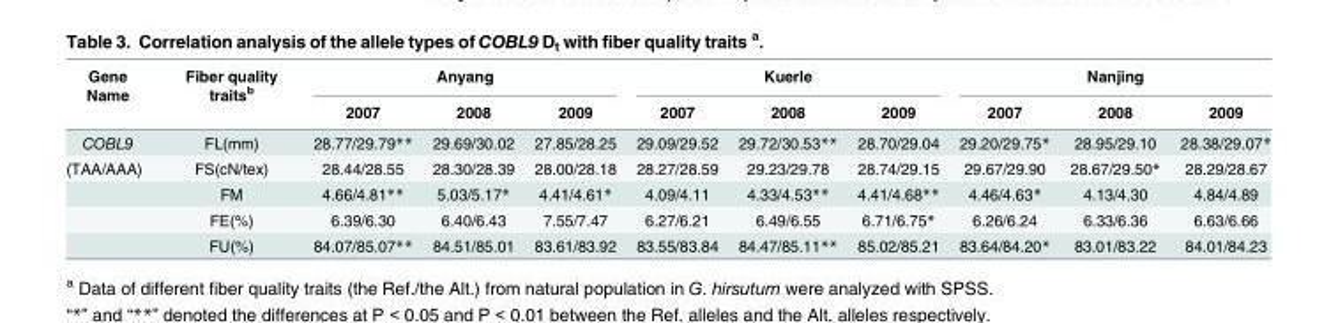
<table><thead><tr><td rowspan="2">Gene Name</td><td rowspan="2">Fiber quality traits<sup>b</sup></td><td colspan="3">Anyang</td><td colspan="3">Kuerle</td><td colspan="3">Nanjing</td></tr><tr><td>2007</td><td>2008</td><td>2009</td><td>2007</td><td>2008</td><td>2009</td><td>2007</td><td>2008</td><td>2009</td></tr></thead><tbody><tr><td>COBL9</td><td>FL(mm)</td><td>28.77/29.79**</td><td>29.69/30.02</td><td>27.85/28.25</td><td>29.09/29.52</td><td>29.72/30.53**</td><td>28.70/29.04</td><td>29.20/29.75*</td><td>28.95/29.10</td><td>28.38/29.07*</td></tr><tr><td rowspan="4">(TAA/AAA)</td><td>FS(cN/tex)</td><td>28.44/28.55</td><td>28.30/28.39</td><td>28.00/28.18</td><td>28.27/28.59</td><td>29.23/29.78</td><td>28.74/29.15</td><td>29.67/29.90</td><td>28.67/29.50*</td><td>28.29/28.67</td></tr><tr><td>FM</td><td>4.66/4.81**</td><td>5.03/5.17*</td><td>4.41/4.61*</td><td>4.09/4.11</td><td>4.33/4.53**</td><td>4.41/4.68**</td><td>4.46/4.63*</td><td>4.13/4.30</td><td>4.84/4.89</td></tr><tr><td>FE(%)</td><td>6.39/6.30</td><td>6.40/6.43</td><td>7.55/7.47</td><td>6.27/6.21</td><td>6.49/6.55</td><td>6.71/6.75*</td><td>6.26/6.24</td><td>6.33/6.36</td><td>6.63/6.66</td></tr><tr><td>FU(%)</td><td>84.07/85.07**</td><td>84.51/85.01</td><td>83.61/83.92</td><td>83.55/83.84</td><td>84.47/85.11**</td><td>85.02/85.21</td><td>83.64/84.20*</td><td>83.01/83.22</td><td>84.01/84.23</td></tr></tbody></table>